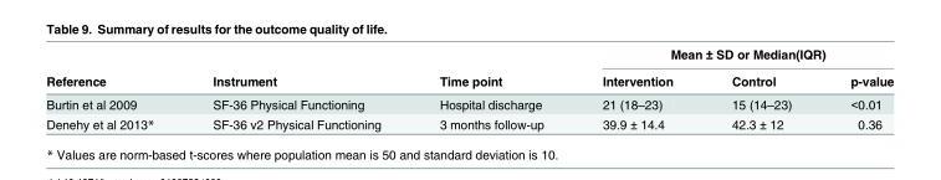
<table><thead><tr><td rowspan="2">Reference</td><td rowspan="2">Instrument</td><td rowspan="2">Time point</td><td colspan="3">Mean ± SD or Median(IQR)</td></tr><tr><td>Intervention</td><td>Control</td><td>p-value</td></tr></thead><tbody><tr><td>Burtin et al 2009</td><td>SF-36 Physical Functioning</td><td>Hospital discharge</td><td>21 (18–23)</td><td>15 (14–23)</td><td>&lt;0.01</td></tr><tr><td>Denehy et al 2013*</td><td>SF-36 v2 Physical Functioning</td><td>3 months follow-up</td><td>39.9 ± 14.4</td><td>42.3 ± 12</td><td>0.36</td></tr></tbody></table>